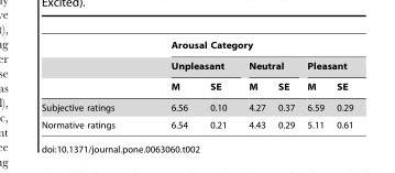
<table><thead><tr><td rowspan="3"></td><td colspan="6">Arousal Category</td></tr><tr><td colspan="2">Unpleasant</td><td colspan="2">Neutral</td><td colspan="2">Pleasant</td></tr><tr><td>M</td><td>SE</td><td>M</td><td>SE</td><td>M</td><td>SE</td></tr></thead><tbody><tr><td>Subjective ratings</td><td>6.56</td><td>0.10</td><td>4.27</td><td>0.37</td><td>6.59</td><td>0.29</td></tr><tr><td>Normative ratings</td><td>6.54</td><td>0.21</td><td>4.43</td><td>0.29</td><td>5.11</td><td>0.61</td></tr></tbody></table>